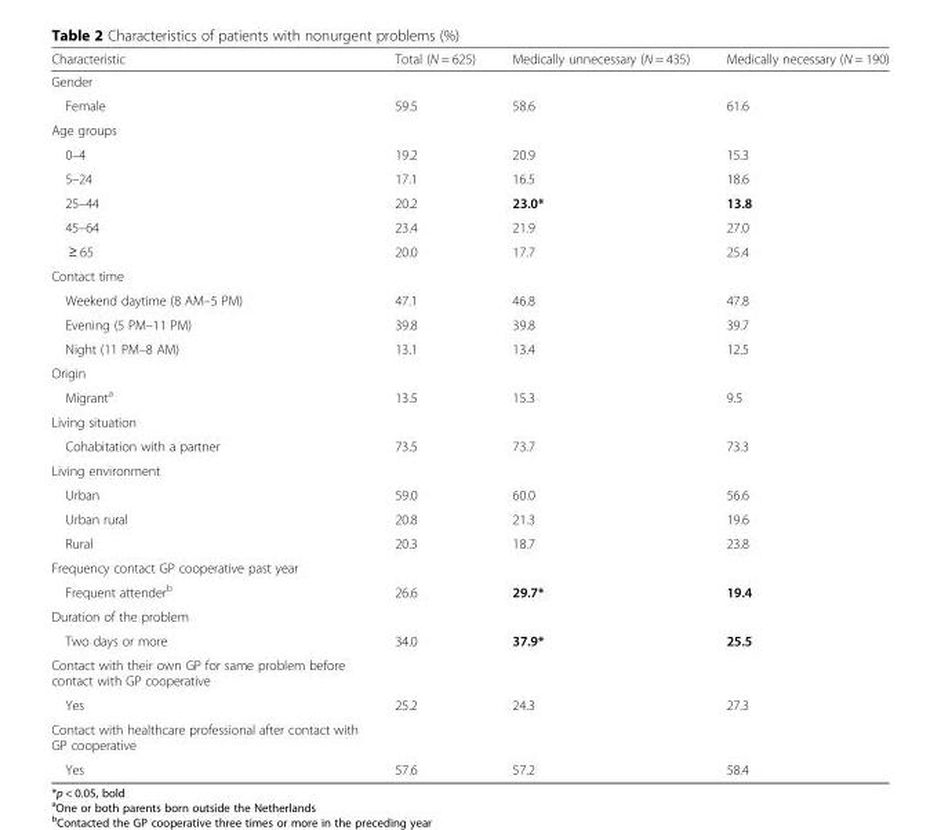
<table><thead><tr><td>Characteristic</td><td>Total (N = 625)</td><td>Medically unnecessary (N = 435)</td><td>Medically necessary (N = 190)</td></tr></thead><tbody><tr><td colspan="4">Gender</td></tr><tr><td>Female</td><td>59.5</td><td>58.6</td><td>61.6</td></tr><tr><td colspan="4">Age groups</td></tr><tr><td>0–4</td><td>19.2</td><td>20.9</td><td>15.3</td></tr><tr><td>5–24</td><td>17.1</td><td>16.5</td><td>18.6</td></tr><tr><td>25–44</td><td>20.2</td><td>23.0*</td><td>13.8</td></tr><tr><td>45–64</td><td>23.4</td><td>21.9</td><td>27.0</td></tr><tr><td>≥ 65</td><td>20.0</td><td>17.7</td><td>25.4</td></tr><tr><td colspan="4">Contact time</td></tr><tr><td>Weekend daytime (8 AM–5 PM)</td><td>47.1</td><td>46.8</td><td>47.8</td></tr><tr><td>Evening (5 PM–11 PM)</td><td>39.8</td><td>39.8</td><td>39.7</td></tr><tr><td>Night (11 PM–8 AM)</td><td>13.1</td><td>13.4</td><td>12.5</td></tr><tr><td colspan="4">Origin</td></tr><tr><td>Migrant<sup>a</sup></td><td>13.5</td><td>15.3</td><td>9.5</td></tr><tr><td colspan="4">Living situation</td></tr><tr><td>Cohabitation with a partner</td><td>73.5</td><td>73.7</td><td>73.3</td></tr><tr><td colspan="4">Living environment</td></tr><tr><td>Urban</td><td>59.0</td><td>60.0</td><td>56.6</td></tr><tr><td>Urban rural</td><td>20.8</td><td>21.3</td><td>19.6</td></tr><tr><td>Rural</td><td>20.3</td><td>18.7</td><td>23.8</td></tr><tr><td colspan="4">Frequency contact GP cooperative past year</td></tr><tr><td>Frequent attender<sup>b</sup></td><td>26.6</td><td>29.7*</td><td>19.4</td></tr><tr><td colspan="4">Duration of the problem</td></tr><tr><td>Two days or more</td><td>34.0</td><td>37.9*</td><td>25.5</td></tr><tr><td colspan="4">Contact with their own GP for same problem before contact with GP cooperative</td></tr><tr><td>Yes</td><td>25.2</td><td>24.3</td><td>27.3</td></tr><tr><td colspan="4">Contact with healthcare professional after contact with GP cooperative</td></tr><tr><td>Yes</td><td>57.6</td><td>57.2</td><td>58.4</td></tr></tbody></table>